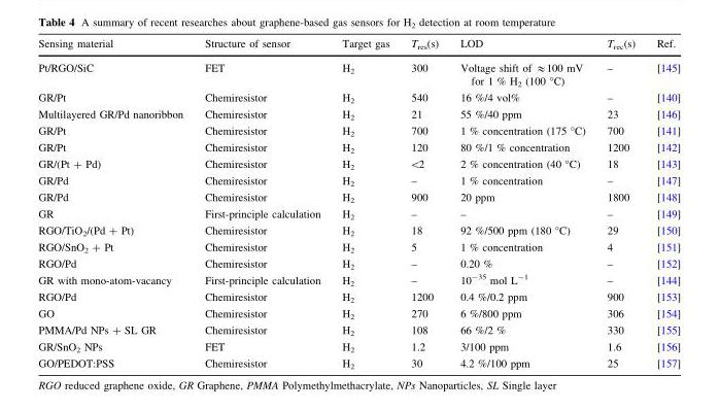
<table><thead><tr><td>Sensing material</td><td>Structure of sensor</td><td>Target gas</td><td>T<sub>res</sub>(s)</td><td>LOD</td><td>T<sub>rec</sub>(s)</td><td>Ref.</td></tr></thead><tbody><tr><td>Pt/RGO/SiC</td><td>FET</td><td>H<sub>2</sub></td><td>300</td><td>Voltage shift of ≈100 mV for 1 % H<sub>2</sub> (100 °C)</td><td>–</td><td>[145]</td></tr><tr><td>GR/Pt</td><td>Chemiresistor</td><td>H<sub>2</sub></td><td>540</td><td>16 %/4 vol%</td><td>–</td><td>[140]</td></tr><tr><td>Multilayered GR/Pd nanoribbon</td><td>Chemiresistor</td><td>H<sub>2</sub></td><td>21</td><td>55 %/40 ppm</td><td>23</td><td>[146]</td></tr><tr><td>GR/Pt</td><td>Chemiresistor</td><td>H<sub>2</sub></td><td>700</td><td>1 % concentration (175 °C)</td><td>700</td><td>[141]</td></tr><tr><td>GR/Pt</td><td>Chemiresistor</td><td>H<sub>2</sub></td><td>120</td><td>80 %/1 % concentration</td><td>1200</td><td>[142]</td></tr><tr><td>GR/(Pt + Pd)</td><td>Chemiresistor</td><td>H<sub>2</sub></td><td>&lt;2</td><td>2 % concentration (40 °C)</td><td>18</td><td>[143]</td></tr><tr><td>GR/Pd</td><td>Chemiresistor</td><td>H<sub>2</sub></td><td>–</td><td>1 % concentration</td><td>–</td><td>[147]</td></tr><tr><td>GR/Pd</td><td>Chemiresistor</td><td>H<sub>2</sub></td><td>900</td><td>20 ppm</td><td>1800</td><td>[148]</td></tr><tr><td>GR</td><td>First-principle calculation</td><td>H<sub>2</sub></td><td>–</td><td>–</td><td>–</td><td>[149]</td></tr><tr><td>RGO/TiO<sub>2</sub>/(Pd + Pt)</td><td>Chemiresistor</td><td>H<sub>2</sub></td><td>18</td><td>92 %/500 ppm (180 °C)</td><td>29</td><td>[150]</td></tr><tr><td>RGO/SnO<sub>2</sub> + Pt</td><td>Chemiresistor</td><td>H<sub>2</sub></td><td>5</td><td>1 % concentration</td><td>4</td><td>[151]</td></tr><tr><td>RGO/Pd</td><td>Chemiresistor</td><td>H<sub>2</sub></td><td>–</td><td>0.20 %</td><td>–</td><td>[152]</td></tr><tr><td>GR with mono-atom-vacancy</td><td>First-principle calculation</td><td>H<sub>2</sub></td><td>–</td><td>10<sup>-35</sup> mol L<sup>-1</sup></td><td>–</td><td>[144]</td></tr><tr><td>RGO/Pd</td><td>Chemiresistor</td><td>H<sub>2</sub></td><td>1200</td><td>0.4 %/0.2 ppm</td><td>900</td><td>[153]</td></tr><tr><td>GO</td><td>Chemiresistor</td><td>H<sub>2</sub></td><td>270</td><td>6 %/800 ppm</td><td>306</td><td>[154]</td></tr><tr><td>PMMA/Pd NPs + SL GR</td><td>Chemiresistor</td><td>H<sub>2</sub></td><td>108</td><td>66 %/2 %</td><td>330</td><td>[155]</td></tr><tr><td>GR/SnO<sub>2</sub> NPs</td><td>FET</td><td>H<sub>2</sub></td><td>1.2</td><td>3/100 ppm</td><td>1.6</td><td>[156]</td></tr><tr><td>GO/PEDOT:PSS</td><td>Chemiresistor</td><td>H<sub>2</sub></td><td>30</td><td>4.2 %/100 ppm</td><td>25</td><td>[157]</td></tr></tbody></table>